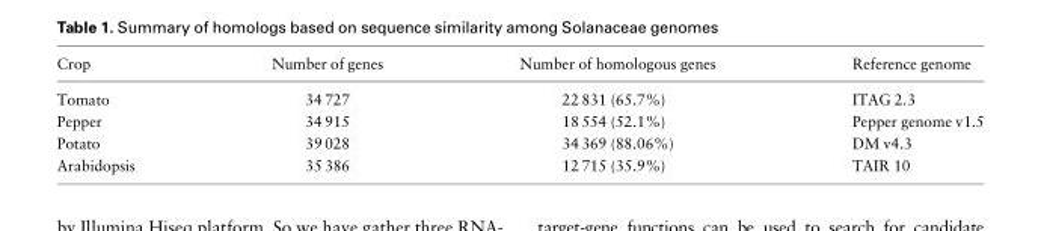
<table><thead><tr><td>Crop</td><td>Number of genes</td><td>Number of homologous genes</td><td>Reference genome</td></tr></thead><tbody><tr><td>Tomato</td><td>34 727</td><td>22 831 (65.7%)</td><td>ITAG 2.3</td></tr><tr><td>Pepper</td><td>34 915</td><td>18 554 (52.1%)</td><td>Pepper genome v1.5</td></tr><tr><td>Potato</td><td>39 028</td><td>34 369 (88.06%)</td><td>DM v4.3</td></tr><tr><td>Arabidopsis</td><td>35 386</td><td>12 715 (35.9%)</td><td>TAIR 10</td></tr></tbody></table>